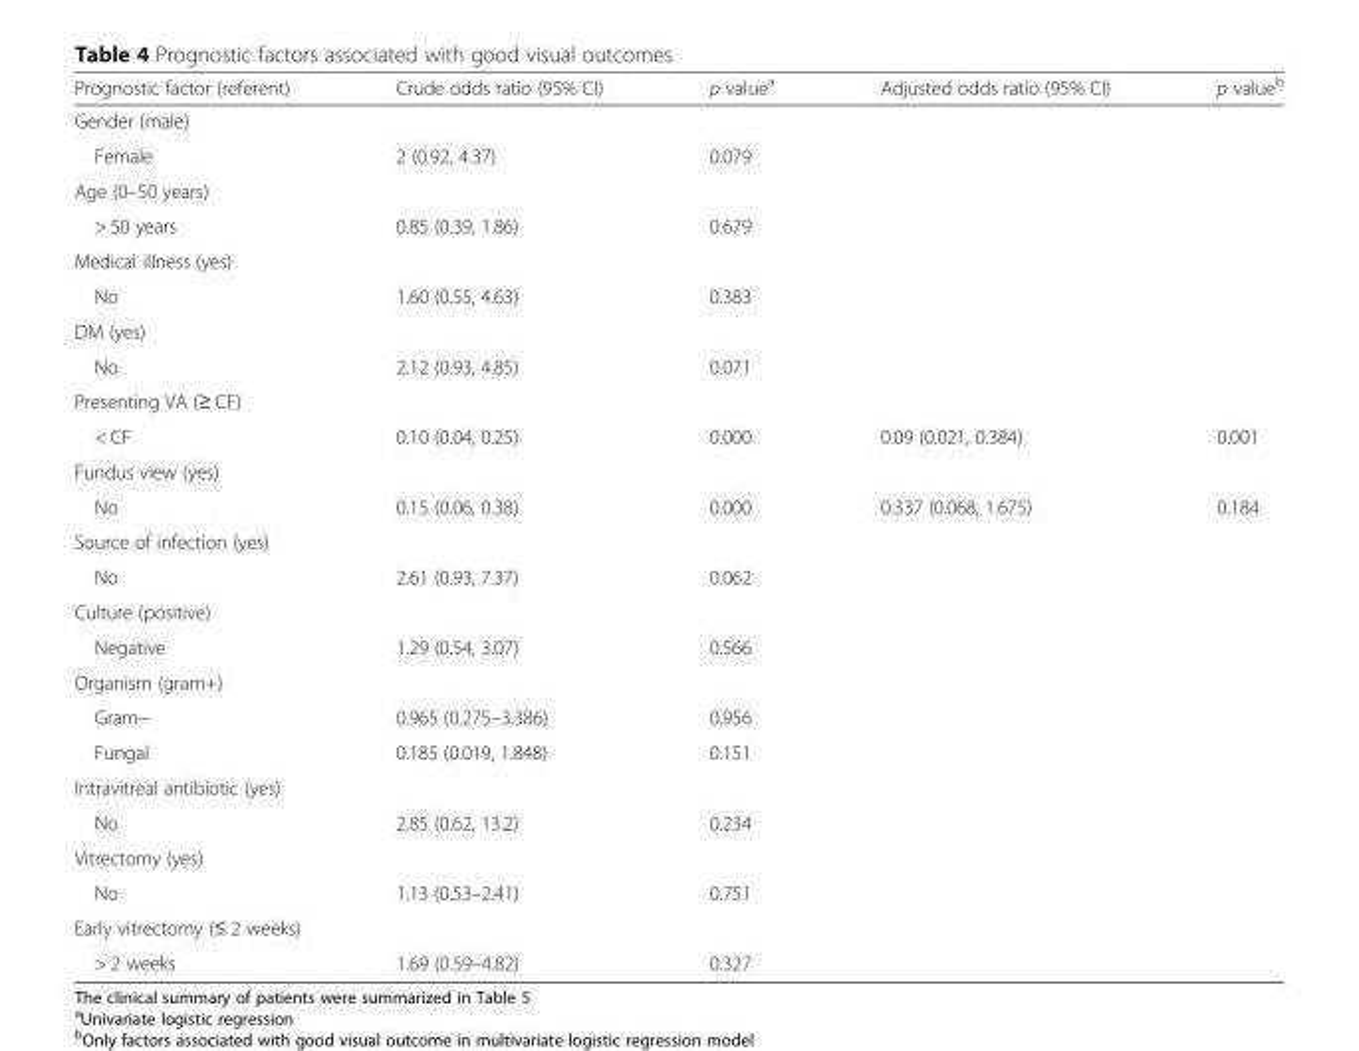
<table><thead><tr><td>Prognostic factor (referent)</td><td>Crude odds ratio (95% CI)</td><td>p value<sup>a</sup></td><td>Adjusted odds ratio (95% CI)</td><td>p value<sup>b</sup></td></tr></thead><tbody><tr><td colspan="5">Gender (male)</td></tr><tr><td>Female</td><td>2 (0.92, 4.37)</td><td>0.079</td><td></td><td></td></tr><tr><td colspan="5">Age (0–50 years)</td></tr><tr><td>&gt; 50 years</td><td>0.85 (0.39, 1.86)</td><td>0.679</td><td></td><td></td></tr><tr><td colspan="5">Medical illness (yes)</td></tr><tr><td>No</td><td>1.60 (0.55, 4.63)</td><td>0.383</td><td></td><td></td></tr><tr><td colspan="5">DM (yes)</td></tr><tr><td>No</td><td>2.12 (0.93, 4.85)</td><td>0.071</td><td></td><td></td></tr><tr><td colspan="5">Presenting VA (≥ CF)</td></tr><tr><td>&lt; CF</td><td>0.10 (0.04, 0.25)</td><td>0.000</td><td>0.09 (0.021, 0.384)</td><td>0.001</td></tr><tr><td colspan="5">Fundus view (yes)</td></tr><tr><td>No</td><td>0.15 (0.06, 0.38)</td><td>0.000</td><td>0.337 (0.068, 1.675)</td><td>0.184</td></tr><tr><td colspan="5">Source of infection (yes)</td></tr><tr><td>No</td><td>2.61 (0.93, 7.37)</td><td>0.062</td><td></td><td></td></tr><tr><td colspan="5">Culture (positive)</td></tr><tr><td>Negative</td><td>1.29 (0.54, 3.07)</td><td>0.566</td><td></td><td></td></tr><tr><td colspan="5">Organism (gram+)</td></tr><tr><td>Gram−</td><td>0.965 (0.275–3.386)</td><td>0.956</td><td></td><td></td></tr><tr><td>Fungal</td><td>0.185 (0.019, 1.848)</td><td>0.151</td><td></td><td></td></tr><tr><td colspan="5">Intravitreal antibiotic (yes)</td></tr><tr><td>No</td><td>2.85 (0.62, 13.2)</td><td>0.234</td><td></td><td></td></tr><tr><td colspan="5">Vitrectomy (yes)</td></tr><tr><td>No</td><td>1.13 (0.53–2.41)</td><td>0.751</td><td></td><td></td></tr><tr><td colspan="5">Early vitrectomy (≤ 2 weeks)</td></tr><tr><td>&gt; 2 weeks</td><td>1.69 (0.59–4.82)</td><td>0.327</td><td></td><td></td></tr></tbody></table>